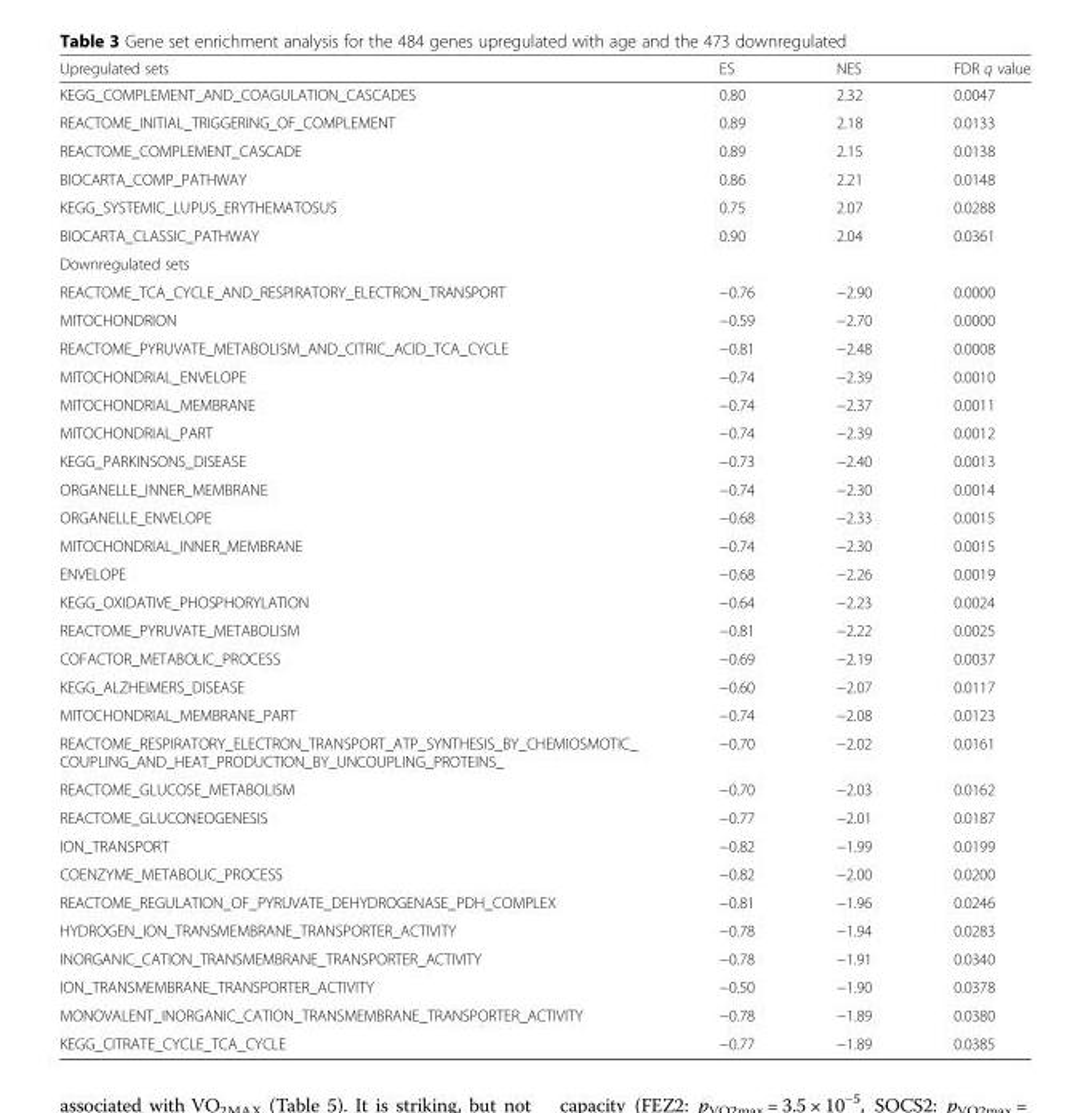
<table><thead><tr><td>Upregulated sets</td><td>ES</td><td>NES</td><td>FDR q value</td></tr></thead><tbody><tr><td>KEGG_COMPLEMENT_AND_COAGULATION_CASCADES</td><td>0.80</td><td>2.32</td><td>0.0047</td></tr><tr><td>REACTOME_INITIAL_TRIGGERING_OF_COMPLEMENT</td><td>0.89</td><td>2.18</td><td>0.0133</td></tr><tr><td>REACTOME_COMPLEMENT_CASCADE</td><td>0.89</td><td>2.15</td><td>0.0138</td></tr><tr><td>BIOCARTA_COMP_PATHWAY</td><td>0.86</td><td>2.21</td><td>0.0148</td></tr><tr><td>KEGG_SYSTEMIC_LUPUS_ERYTHEMATOSUS</td><td>0.75</td><td>2.07</td><td>0.0288</td></tr><tr><td>BIOCARTA_CLASSIC_PATHWAY</td><td>0.90</td><td>2.04</td><td>0.0361</td></tr><tr><td colspan="4">Downregulated sets</td></tr><tr><td>REACTOME_TCA_CYCLE_AND_RESPIRATORY_ELECTRON_TRANSPORT</td><td>−0.76</td><td>−2.90</td><td>0.0000</td></tr><tr><td>MITOCHONDRION</td><td>−0.59</td><td>−2.70</td><td>0.0000</td></tr><tr><td>REACTOME_PYRUVATE_METABOLISM_AND_CITRIC_ACID_TCA_CYCLE</td><td>−0.81</td><td>−2.48</td><td>0.0008</td></tr><tr><td>MITOCHONDRIAL_ENVELOPE</td><td>−0.74</td><td>−2.39</td><td>0.0010</td></tr><tr><td>MITOCHONDRIAL_MEMBRANE</td><td>−0.74</td><td>−2.37</td><td>0.0011</td></tr><tr><td>MITOCHONDRIAL_PART</td><td>−0.74</td><td>−2.39</td><td>0.0012</td></tr><tr><td>KEGG_PARKINSONS_DISEASE</td><td>−0.73</td><td>−2.40</td><td>0.0013</td></tr><tr><td>ORGANELLE_INNER_MEMBRANE</td><td>−0.74</td><td>−2.30</td><td>0.0014</td></tr><tr><td>ORGANELLE_ENVELOPE</td><td>−0.68</td><td>−2.33</td><td>0.0015</td></tr><tr><td>MITOCHONDRIAL_INNER_MEMBRANE</td><td>−0.74</td><td>−2.30</td><td>0.0015</td></tr><tr><td>ENVELOPE</td><td>−0.68</td><td>−2.26</td><td>0.0019</td></tr><tr><td>KEGG_OXIDATIVE_PHOSPHORYLATION</td><td>−0.64</td><td>−2.23</td><td>0.0024</td></tr><tr><td>REACTOME_PYRUVATE_METABOLISM</td><td>−0.81</td><td>−2.22</td><td>0.0025</td></tr><tr><td>COFACTOR_METABOLIC_PROCESS</td><td>−0.69</td><td>−2.19</td><td>0.0037</td></tr><tr><td>KEGG_ALZHEIMERS_DISEASE</td><td>−0.60</td><td>−2.07</td><td>0.0117</td></tr><tr><td>MITOCHONDRIAL_MEMBRANE_PART</td><td>−0.74</td><td>−2.08</td><td>0.0123</td></tr><tr><td>REACTOME_RESPIRATORY_ELECTRON_TRANSPORT_ATP_SYNTHESIS_BY_CHEMIOSMOTIC_ COUPLING_AND_HEAT_PRODUCTION_BY_UNCOUPLING_PROTEINS_</td><td>−0.70</td><td>−2.02</td><td>0.0161</td></tr><tr><td>REACTOME_GLUCOSE_METABOLISM</td><td>−0.70</td><td>−2.03</td><td>0.0162</td></tr><tr><td>REACTOME_GLUCONEOGENESIS</td><td>−0.77</td><td>−2.01</td><td>0.0187</td></tr><tr><td>ION_TRANSPORT</td><td>−0.82</td><td>−1.99</td><td>0.0199</td></tr><tr><td>COENZYME_METABOLIC_PROCESS</td><td>−0.82</td><td>−2.00</td><td>0.0200</td></tr><tr><td>REACTOME_REGULATION_OF_PYRUVATE_DEHYDROGENASE_PDH_COMPLEX</td><td>−0.81</td><td>−1.96</td><td>0.0246</td></tr><tr><td>HYDROGEN_ION_TRANSMEMBRANE_TRANSPORTER_ACTIVITY</td><td>−0.78</td><td>−1.94</td><td>0.0283</td></tr><tr><td>INORGANIC_CATION_TRANSMEMBRANE_TRANSPORTER_ACTIVITY</td><td>−0.78</td><td>−1.91</td><td>0.0340</td></tr><tr><td>ION_TRANSMEMBRANE_TRANSPORTER_ACTIVITY</td><td>−0.50</td><td>−1.90</td><td>0.0378</td></tr><tr><td>MONOVALENT_INORGANIC_CATION_TRANSMEMBRANE_TRANSPORTER_ACTIVITY</td><td>−0.78</td><td>−1.89</td><td>0.0380</td></tr><tr><td>KEGG_CITRATE_CYCLE_TCA_CYCLE</td><td>−0.77</td><td>−1.89</td><td>0.0385</td></tr></tbody></table>